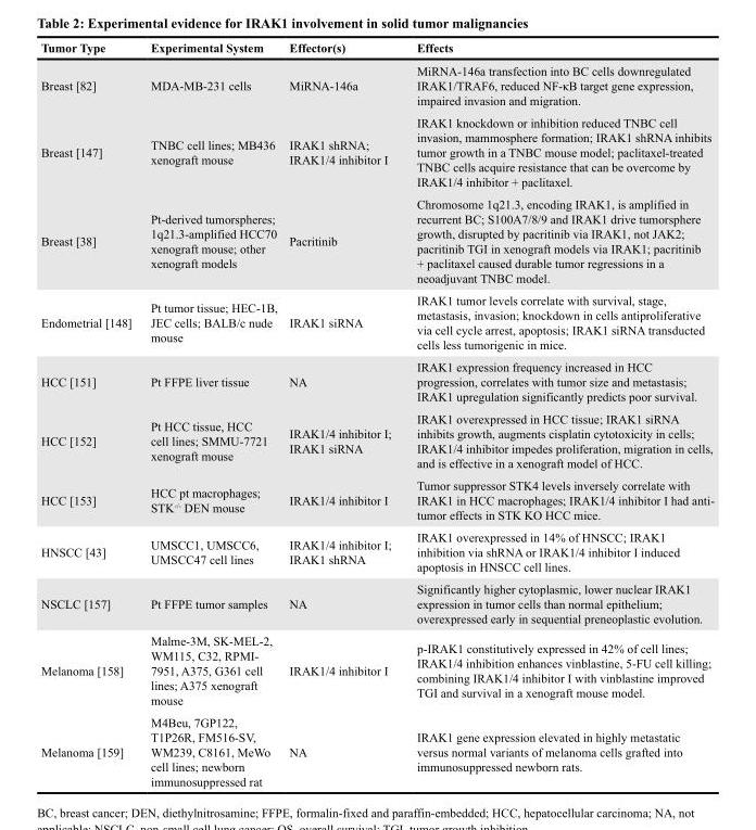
<table><thead><tr><td>Tumor Type</td><td>Experimental System</td><td>Effector(s)</td><td>Effects</td></tr></thead><tbody><tr><td>Breast [82]</td><td>MDA-MB-231 cells</td><td>MiRNA-146a</td><td>MiRNA-146a transfection into BC cells downregulated IRAK1/TRAF6, reduced NF-κB target gene expression, impaired invasion and migration.</td></tr><tr><td>Breast [147]</td><td>TNBC cell lines; MB436 xenograft mouse</td><td>IRAK1 shRNA; IRAK1/4 inhibitor I</td><td>IRAK1 knockdown or inhibition reduced TNBC cell invasion, mammosphere formation; IRAK1 shRNA inhibits tumor growth in a TNBC mouse model; paclitaxel-treated TNBC cells acquire resistance that can be overcome by IRAK1/4 inhibitor + paclitaxel.</td></tr><tr><td>Breast [38]</td><td>Pt-derived tumorspheres; 1q21.3-amplified HCC70 xenograft mouse; other xenograft models</td><td>Pacritinib</td><td>Chromosome 1q21.3, encoding IRAK1, is amplified in recurrent BC; S100A7/8/9 and IRAK1 drive tumorsphere growth, disrupted by pacritinib via IRAK1, not JAK2; pacritinib TGI in xenograft models via IRAK1; pacritinib + paclitaxel caused durable tumor regressions in a neoadjuvant TNBC model.</td></tr><tr><td>Endometrial [148]</td><td>Pt tumor tissue; HEC-1B, JEC cells; BALB/c nude mouse</td><td>IRAK1 siRNA</td><td>IRAK1 tumor levels correlate with survival, stage, metastasis, invasion; knockdown in cells antiproliferative via cell cycle arrest, apoptosis; IRAK1 siRNA transducted cells less tumorigenic in mice.</td></tr><tr><td>HCC [151]</td><td>Pt FFPE liver tissue</td><td>NA</td><td>IRAK1 expression frequency increased in HCC progression, correlates with tumor size and metastasis; IRAK1 upregulation significantly predicts poor survival.</td></tr><tr><td>HCC [152]</td><td>Pt HCC tissue, HCC cell lines; SMMU-7721 xenograft mouse</td><td>IRAK1/4 inhibitor I; IRAK1 siRNA</td><td>IRAK1 overexpressed in HCC tissue; IRAK1 siRNA inhibits growth, augments cisplatin cytotoxicity in cells; IRAK1/4 inhibitor impedes proliferation, migration in cells, and is effective in a xenograft model of HCC.</td></tr><tr><td>HCC [153]</td><td>HCC pt macrophages; STK<sup>-/-</sup> DEN mouse</td><td>IRAK1/4 inhibitor I</td><td>Tumor suppressor STK4 levels inversely correlate with IRAK1 in HCC macrophages; IRAK1/4 inhibitor I had anti- tumor effects in STK KO HCC mice.</td></tr><tr><td>HNSCC [43]</td><td>UMSCC1, UMSCC6, UMSCC47 cell lines</td><td>IRAK1/4 inhibitor I; IRAK1 shRNA</td><td>IRAK1 overexpressed in 14% of HNSCC; IRAK1 inhibition via shRNA or IRAK1/4 inhibitor I induced apoptosis in HNSCC cell lines.</td></tr><tr><td>NSCLC [157]</td><td>Pt FFPE tumor samples</td><td>NA</td><td>Significantly higher cytoplasmic, lower nuclear IRAK1 expression in tumor cells than normal epithelium; overexpressed early in sequential preneoplastic evolution.</td></tr><tr><td>Melanoma [158]</td><td>Malme-3M, SK-MEL-2, WM115, C32, RPMI- 7951, A375, G361 cell lines; A375 xenograft mouse</td><td>IRAK1/4 inhibitor I</td><td>p-IRAK1 constitutively expressed in 42% of cell lines; IRAK1/4 inhibition enhances vinblastine, 5-FU cell killing; combining IRAK1/4 inhibitor I with vinblastine improved TGI and survival in a xenograft mouse model.</td></tr><tr><td>Melanoma [159]</td><td>M4Beu, 7GP122, T1P26R, FM516-SV, WM239, C8161, MeWo cell lines; newborn immunosuppressed rat</td><td>NA</td><td>IRAK1 gene expression elevated in highly metastatic versus normal variants of melanoma cells grafted into immunosuppressed newborn rats.</td></tr></tbody></table>